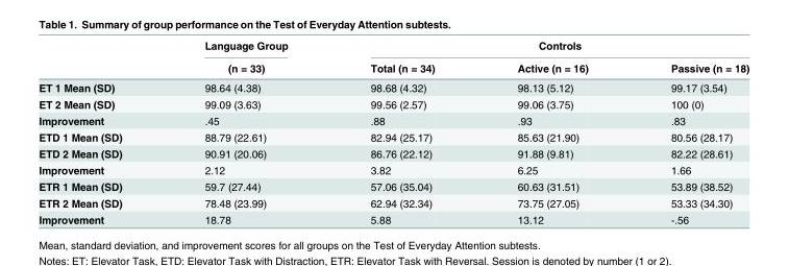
<table><thead><tr><td rowspan="2"></td><td rowspan="2">Language Group (n = 33)</td><td colspan="3">Controls</td></tr><tr><td>Total (n = 34)</td><td>Active (n = 16)</td><td>Passive (n = 18)</td></tr></thead><tbody><tr><td>ET 1 Mean (SD)</td><td>98.64 (4.38)</td><td>98.68 (4.32)</td><td>98.13 (5.12)</td><td>99.17 (3.54)</td></tr><tr><td>ET 2 Mean (SD)</td><td>99.09 (3.63)</td><td>99.56 (2.57)</td><td>99.06 (3.75)</td><td>100 (0)</td></tr><tr><td>Improvement</td><td>.45</td><td>.88</td><td>.93</td><td>.83</td></tr><tr><td>ETD 1 Mean (SD)</td><td>88.79 (22.61)</td><td>82.94 (25.17)</td><td>85.63 (21.90)</td><td>80.56 (28.17)</td></tr><tr><td>ETD 2 Mean (SD)</td><td>90.91 (20.06)</td><td>86.76 (22.12)</td><td>91.88 (9.81)</td><td>82.22 (28.61)</td></tr><tr><td>Improvement</td><td>2.12</td><td>3.82</td><td>6.25</td><td>1.66</td></tr><tr><td>ETR 1 Mean (SD)</td><td>59.7 (27.44)</td><td>57.06 (35.04)</td><td>60.63 (31.51)</td><td>53.89 (38.52)</td></tr><tr><td>ETR 2 Mean (SD)</td><td>78.48 (23.99)</td><td>62.94 (32.34)</td><td>73.75 (27.05)</td><td>53.33 (34.30)</td></tr><tr><td>Improvement</td><td>18.78</td><td>5.88</td><td>13.12</td><td>-.56</td></tr></tbody></table>